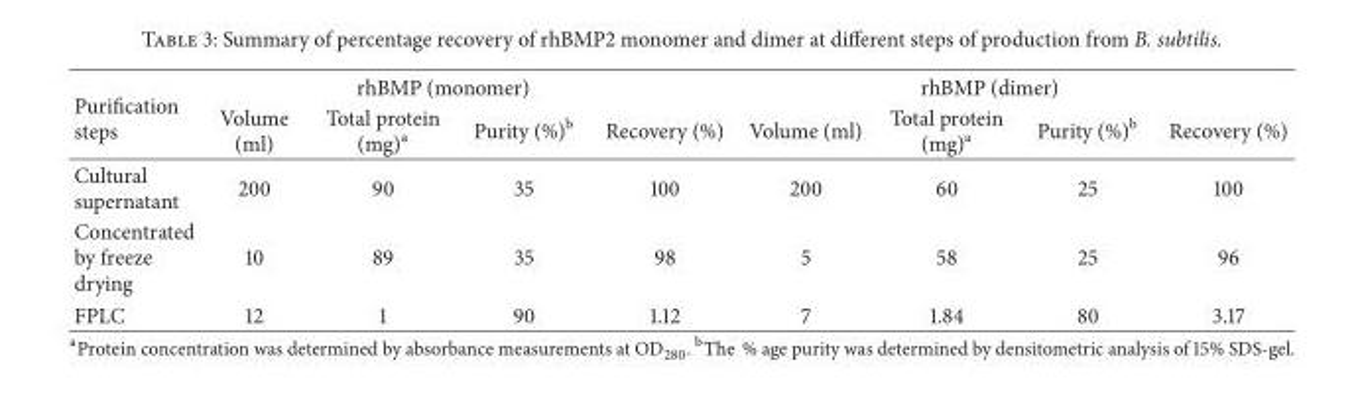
<table><thead><tr><td rowspan="2">Purification steps</td><td colspan="4">rhBMP (monomer)</td><td colspan="4">rhBMP (dimer)</td></tr><tr><td>Volume (ml)</td><td>Total protein (mg)<sup>a</sup></td><td>Purity (%)<sup>b</sup></td><td>Recovery (%)</td><td>Volume (ml)</td><td>Total protein (mg)<sup>a</sup></td><td>Purity (%)<sup>b</sup></td><td>Recovery (%)</td></tr></thead><tbody><tr><td>Cultural supernatant</td><td>200</td><td>90</td><td>35</td><td>100</td><td>200</td><td>60</td><td>25</td><td>100</td></tr><tr><td>Concentrated by freeze drying</td><td>10</td><td>89</td><td>35</td><td>98</td><td>5</td><td>58</td><td>25</td><td>96</td></tr><tr><td>FPLC</td><td>12</td><td>1</td><td>90</td><td>1.12</td><td>7</td><td>1.84</td><td>80</td><td>3.17</td></tr></tbody></table>